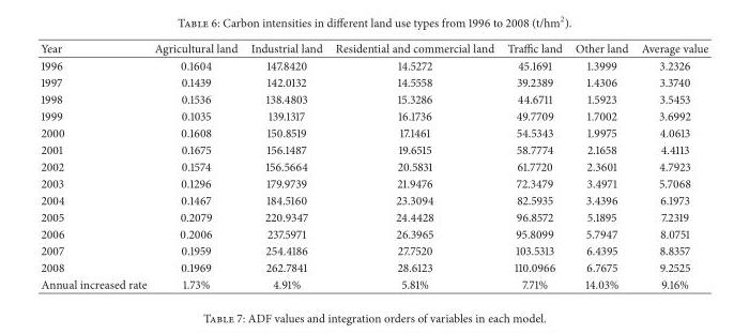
<table><thead><tr><td>Year</td><td>Agricultural land</td><td>Industrial land</td><td>Residential and commercial land</td><td>Traffic land</td><td>Other land</td><td>Average value</td></tr></thead><tbody><tr><td>1996</td><td>0.1604</td><td>147.8420</td><td>14.5272</td><td>45.1691</td><td>1.3999</td><td>3.2326</td></tr><tr><td>1997</td><td>0.1439</td><td>142.0132</td><td>14.5558</td><td>39.2389</td><td>1.4306</td><td>3.3740</td></tr><tr><td>1998</td><td>0.1536</td><td>138.4803</td><td>15.3286</td><td>44.6711</td><td>1.5923</td><td>3.5453</td></tr><tr><td>1999</td><td>0.1035</td><td>139.1317</td><td>16.1736</td><td>49.7709</td><td>1.7002</td><td>3.6992</td></tr><tr><td>2000</td><td>0.1608</td><td>150.8519</td><td>17.1461</td><td>54.5343</td><td>1.9975</td><td>4.0613</td></tr><tr><td>2001</td><td>0.1675</td><td>156.1487</td><td>19.6515</td><td>58.7774</td><td>2.1658</td><td>4.4113</td></tr><tr><td>2002</td><td>0.1574</td><td>156.5664</td><td>20.5831</td><td>61.7720</td><td>2.3601</td><td>4.7923</td></tr><tr><td>2003</td><td>0.1296</td><td>179.9739</td><td>21.9476</td><td>72.3479</td><td>3.4971</td><td>5.7068</td></tr><tr><td>2004</td><td>0.1467</td><td>184.5160</td><td>23.3094</td><td>82.5935</td><td>3.4396</td><td>6.1973</td></tr><tr><td>2005</td><td>0.2079</td><td>220.9347</td><td>24.4428</td><td>96.8572</td><td>5.1895</td><td>7.2319</td></tr><tr><td>2006</td><td>0.2006</td><td>237.5971</td><td>26.3965</td><td>95.8099</td><td>5.7947</td><td>8.0751</td></tr><tr><td>2007</td><td>0.1959</td><td>254.4186</td><td>27.7520</td><td>103.5313</td><td>6.4395</td><td>8.8357</td></tr><tr><td>2008</td><td>0.1969</td><td>262.7841</td><td>28.6123</td><td>110.0966</td><td>6.7675</td><td>9.2525</td></tr><tr><td>Annual increased rate</td><td>1.73%</td><td>4.91%</td><td>5.81%</td><td>7.71%</td><td>14.03%</td><td>9.16%</td></tr></tbody></table>